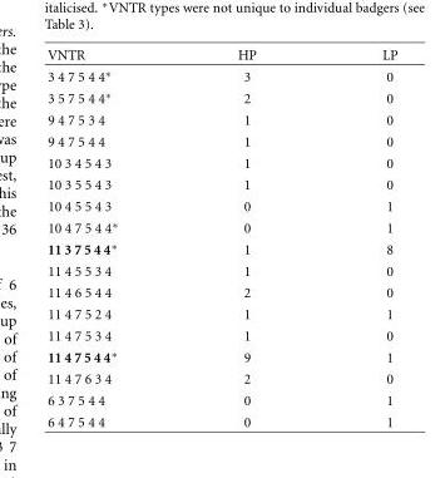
<table><thead><tr><td>VNTR</td><td>HP</td><td>LP</td></tr></thead><tbody><tr><td>3 4 7 5 4 4∗</td><td>3</td><td>0</td></tr><tr><td>3 5 7 5 4 4∗</td><td>2</td><td>0</td></tr><tr><td>9 4 7 5 3 4</td><td>1</td><td>0</td></tr><tr><td>9 4 7 5 4 4</td><td>1</td><td>0</td></tr><tr><td>10 3 4 5 4 3</td><td>1</td><td>0</td></tr><tr><td>10 3 5 5 4 3</td><td>1</td><td>0</td></tr><tr><td>10 4 5 5 4 3</td><td>0</td><td>1</td></tr><tr><td>10 4 7 5 4 4∗</td><td>0</td><td>1</td></tr><tr><td>11 3 7 5 4 4∗</td><td>1</td><td>8</td></tr><tr><td>11 4 5 5 3 4</td><td>1</td><td>0</td></tr><tr><td>11 4 6 5 4 4</td><td>2</td><td>0</td></tr><tr><td>11 4 7 5 2 4</td><td>1</td><td>1</td></tr><tr><td>11 4 7 5 3 4</td><td>1</td><td>0</td></tr><tr><td>11 4 7 5 4 4∗</td><td>9</td><td>1</td></tr><tr><td>11 4 7 6 3 4</td><td>2</td><td>0</td></tr><tr><td>6 3 7 5 4 4</td><td>0</td><td>1</td></tr><tr><td>6 4 7 5 4 4</td><td>0</td><td>1</td></tr></tbody></table>